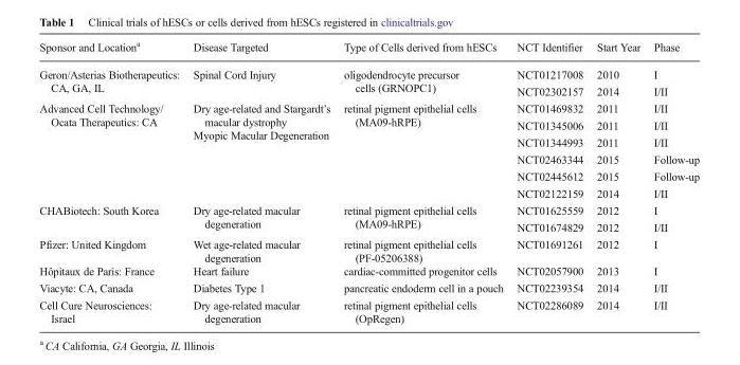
<table><thead><tr><td>Sponsor and Location<sup>a</sup></td><td>Disease Targeted</td><td>Type of Cells derived from hESCs</td><td>NCT Identifier</td><td>Start Year</td><td>Phase</td></tr></thead><tbody><tr><td rowspan="2">Geron/Asterias Biotherapeutics: CA, GA, IL</td><td rowspan="2">Spinal Cord Injury</td><td rowspan="2">oligodendrocyte precursor cells (GRNOPC1)</td><td>NCT01217008</td><td>2010</td><td>I</td></tr><tr><td>NCT02302157</td><td>2014</td><td>I/II</td></tr><tr><td rowspan="6">Advanced Cell Technology/ Ocata Therapeutics: CA</td><td rowspan="6">Dry age-related and Stargardt’s macular dystrophy Myopic Macular Degeneration</td><td rowspan="6">retinal pigment epithelial cells (MA09-hRPE)</td><td>NCT01469832</td><td>2011</td><td>I/II</td></tr><tr><td>NCT01345006</td><td>2011</td><td>I/II</td></tr><tr><td>NCT01344993</td><td>2011</td><td>I/II</td></tr><tr><td>NCT02463344</td><td>2015</td><td>Follow-up</td></tr><tr><td>NCT02445612</td><td>2015</td><td>Follow-up</td></tr><tr><td>NCT02122159</td><td>2014</td><td>I/II</td></tr><tr><td rowspan="2">CHABiotech: South Korea</td><td rowspan="2">Dry age-related macular degeneration</td><td rowspan="2">retinal pigment epithelial cells (MA09-hRPE)</td><td>NCT01625559</td><td>2012</td><td>I</td></tr><tr><td>NCT01674829</td><td>2012</td><td>I/II</td></tr><tr><td>Pfizer: United Kingdom</td><td>Wet age-related macular degeneration</td><td>retinal pigment epithelial cells (PF-05206388)</td><td>NCT01691261</td><td>2012</td><td>I</td></tr><tr><td>Hôpitaux de Paris: France</td><td>Heart failure</td><td>cardiac-committed progenitor cells</td><td>NCT02057900</td><td>2013</td><td>I</td></tr><tr><td>Viacyte: CA, Canada</td><td>Diabetes Type 1</td><td>pancreatic endoderm cell in a pouch</td><td>NCT02239354</td><td>2014</td><td>I/II</td></tr><tr><td>Cell Cure Neurosciences: Israel</td><td>Dry age-related macular degeneration</td><td>retinal pigment epithelial cells (OpRegen)</td><td>NCT02286089</td><td>2014</td><td>I/II</td></tr></tbody></table>